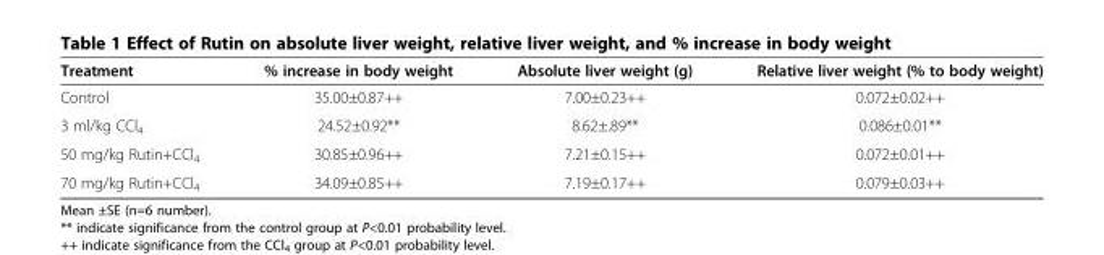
<table><thead><tr><td>Treatment</td><td>% increase in body weight</td><td>Absolute liver weight (g)</td><td>Relative liver weight (% to body weight)</td></tr></thead><tbody><tr><td>Control</td><td>35.00±0.87++</td><td>7.00±0.23++</td><td>0.072±0.02++</td></tr><tr><td>3 ml/kg CCl<sub>4</sub></td><td>24.52±0.92**</td><td>8.62±.89**</td><td>0.086±0.01**</td></tr><tr><td>50 mg/kg Rutin+CCl<sub>4</sub></td><td>30.85±0.96++</td><td>7.21±0.15++</td><td>0.072±0.01++</td></tr><tr><td>70 mg/kg Rutin+CCl<sub>4</sub></td><td>34.09±0.85++</td><td>7.19±0.17++</td><td>0.079±0.03++</td></tr></tbody></table>